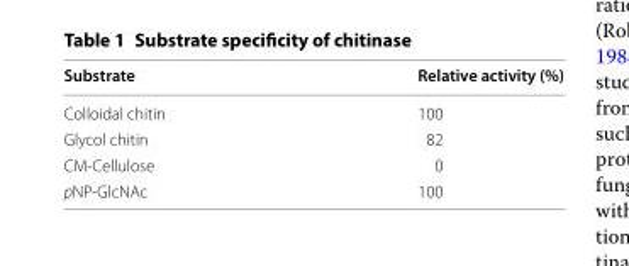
<table><thead><tr><td>Substrate</td><td>Relative activity (%)</td></tr></thead><tbody><tr><td>Colloidal chitin</td><td>100</td></tr><tr><td>Glycol chitin</td><td>82</td></tr><tr><td>CM-Cellulose</td><td>0</td></tr><tr><td>pNP-GlcNAc</td><td>100</td></tr></tbody></table>